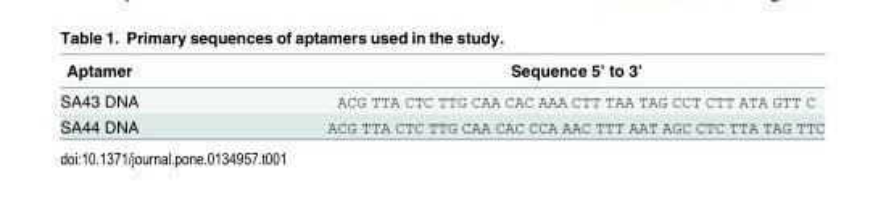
<table><thead><tr><td>Aptamer</td><td>Sequence 5’ to 3’</td></tr></thead><tbody><tr><td>SA43 DNA</td><td>ACG TTA CTC TTG CAA CAC AAA CTT TAA TAG CCT CTT ATA GTT C</td></tr><tr><td>SA44 DNA</td><td>ACG TTA CTC TTG CAA CAC CCA AAC TTT AAT AGC CTC TTA TAG TTC</td></tr></tbody></table>